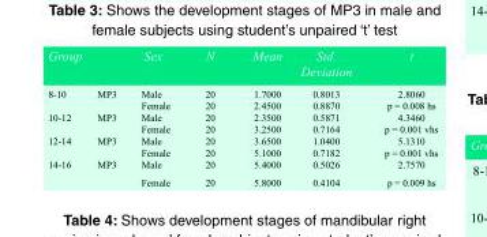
<table><tbody><tr><td>Group</td><td></td><td>Sex</td><td>N</td><td>Mean</td><td>Std. Deviation</td><td>t</td></tr><tr><td rowspan="2">8-10</td><td>MP3</td><td>Male</td><td>20</td><td>1.7000</td><td>0.8013</td><td>2.8060</td></tr><tr><td></td><td>Female</td><td>20</td><td>2.4500</td><td>0.8870</td><td>p = 0.008 hs</td></tr><tr><td rowspan="2">10-12</td><td>MP3</td><td>Male</td><td>20</td><td>2.3500</td><td>0.5871</td><td>4.3460</td></tr><tr><td></td><td>Female</td><td>20</td><td>3.2500</td><td>0.7164</td><td>p = 0.001 vhs</td></tr><tr><td rowspan="2">12-14</td><td>MP3</td><td>Male</td><td>20</td><td>3.6500</td><td>1.0400</td><td>5.1310</td></tr><tr><td></td><td>Female</td><td>20</td><td>5.1000</td><td>0.7182</td><td>p = 0.001 vhs</td></tr><tr><td rowspan="2">14-16</td><td>MP3</td><td>Male</td><td>20</td><td>5.4000</td><td>0.5026</td><td>2.7570</td></tr><tr><td></td><td>Female</td><td>20</td><td>5.8000</td><td>0.4104</td><td>p = 0.009 hs</td></tr></tbody></table>